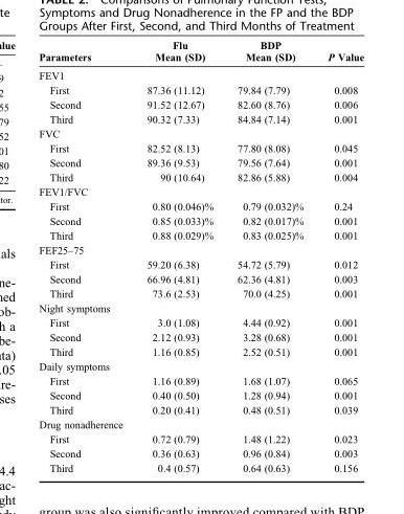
<table><thead><tr><td>Parameters</td><td>Flu Mean (SD)</td><td>BDP Mean (SD)</td><td>P Value</td></tr></thead><tbody><tr><td colspan="4">FEV1</td></tr><tr><td>First</td><td>87.36 (11.12)</td><td>79.84 (7.79)</td><td>0.008</td></tr><tr><td>Second</td><td>91.52 (12.67)</td><td>82.60 (8.76)</td><td>0.006</td></tr><tr><td>Third</td><td>90.32 (7.33)</td><td>84.84 (7.14)</td><td>0.001</td></tr><tr><td colspan="4">FVC</td></tr><tr><td>First</td><td>82.52 (8.13)</td><td>77.80 (8.08)</td><td>0.045</td></tr><tr><td>Second</td><td>89.36 (9.53)</td><td>79.56 (7.64)</td><td>0.001</td></tr><tr><td>Third</td><td>90 (10.64)</td><td>82.86 (5.88)</td><td>0.004</td></tr><tr><td colspan="4">FEV1/FVC</td></tr><tr><td>First</td><td>0.80 (0.046)%</td><td>0.79 (0.032)%</td><td>0.24</td></tr><tr><td>Second</td><td>0.85 (0.033)%</td><td>0.82 (0.017)%</td><td>0.001</td></tr><tr><td>Third</td><td>0.88 (0.029)%</td><td>0.83 (0.025)%</td><td>0.001</td></tr><tr><td colspan="4">FEF25–75</td></tr><tr><td>First</td><td>59.20 (6.38)</td><td>54.72 (5.79)</td><td>0.012</td></tr><tr><td>Second</td><td>66.96 (4.81)</td><td>62.36 (4.81)</td><td>0.003</td></tr><tr><td>Third</td><td>73.6 (2.53)</td><td>70.0 (4.25)</td><td>0.001</td></tr><tr><td colspan="4">Night symptoms</td></tr><tr><td>First</td><td>3.0 (1.08)</td><td>4.44 (0.92)</td><td>0.001</td></tr><tr><td>Second</td><td>2.12 (0.93)</td><td>3.28 (0.68)</td><td>0.001</td></tr><tr><td>Third</td><td>1.16 (0.85)</td><td>2.52 (0.51)</td><td>0.001</td></tr><tr><td colspan="4">Daily symptoms</td></tr><tr><td>First</td><td>1.16 (0.89)</td><td>1.68 (1.07)</td><td>0.065</td></tr><tr><td>Second</td><td>0.40 (0.50)</td><td>1.28 (0.94)</td><td>0.001</td></tr><tr><td>Third</td><td>0.20 (0.41)</td><td>0.48 (0.51)</td><td>0.039</td></tr><tr><td colspan="4">Drug nonadherence</td></tr><tr><td>First</td><td>0.72 (0.79)</td><td>1.48 (1.22)</td><td>0.023</td></tr><tr><td>Second</td><td>0.36 (0.63)</td><td>0.96 (0.84)</td><td>0.003</td></tr><tr><td>Third</td><td>0.4 (0.57)</td><td>0.64 (0.63)</td><td>0.156</td></tr></tbody></table>